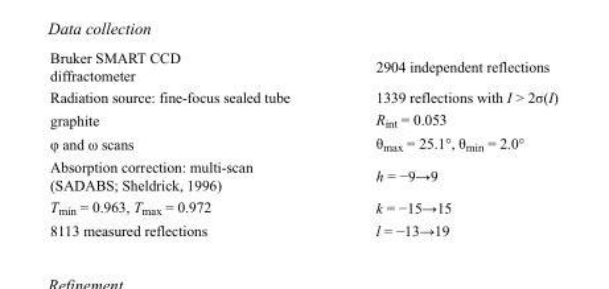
<table><tbody><tr><td>Bruker SMART CCD diffractometer</td><td>2904 independent reflections</td></tr><tr><td>Radiation source: fine-focus sealed tube</td><td>1339 reflections with I &gt; 2σ(I)</td></tr><tr><td>graphite</td><td>R<sub>int</sub> = 0.053</td></tr><tr><td>φ and ω scans</td><td>θ<sub>max</sub> = 25.1°, θ<sub>min</sub> = 2.0°</td></tr><tr><td>Absorption correction: multi-scan (SADABS; Sheldrick, 1996)</td><td>h = −9→9</td></tr><tr><td>T<sub>min</sub> = 0.963, T<sub>max</sub> = 0.972</td><td>k = −15→15</td></tr><tr><td>8113 measured reflections</td><td>l = −13→19</td></tr></tbody></table>